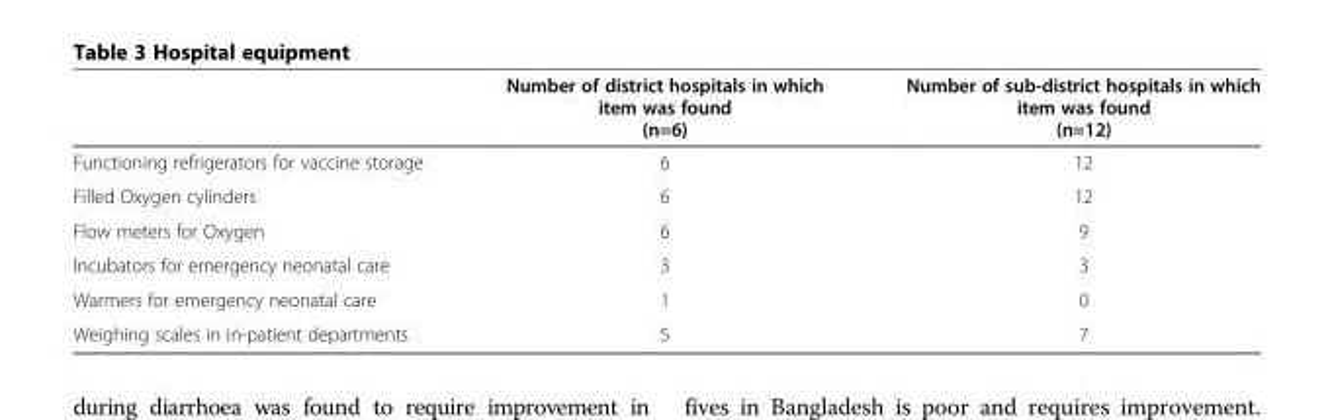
<table><thead><tr><td></td><td>Number of district hospitals in which item was found (n=6)</td><td>Number of sub-district hospitals in which item was found (n=12)</td></tr></thead><tbody><tr><td>Functioning refrigerators for vaccine storage</td><td>6</td><td>12</td></tr><tr><td>Filled Oxygen cylinders</td><td>6</td><td>12</td></tr><tr><td>Flow meters for Oxygen</td><td>6</td><td>9</td></tr><tr><td>Incubators for emergency neonatal care</td><td>3</td><td>3</td></tr><tr><td>Warmers for emergency neonatal care</td><td>1</td><td>0</td></tr><tr><td>Weighing scales in in-patient departments</td><td>5</td><td>7</td></tr></tbody></table>